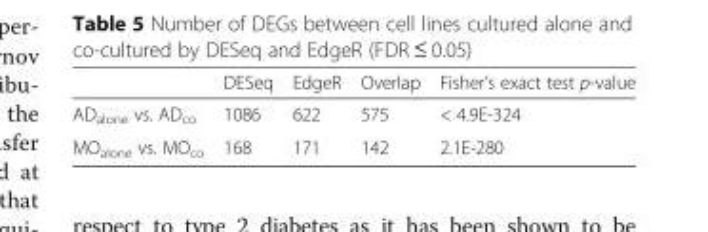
<table><thead><tr><td></td><td>DESeq</td><td>EdgeR</td><td>Overlap</td><td>Fisher’s exact test p-value</td></tr></thead><tbody><tr><td>AD<sub>alone</sub> vs. AD<sub>co</sub></td><td>1086</td><td>622</td><td>575</td><td>&lt; 4.9E-324</td></tr><tr><td>MO<sub>alone</sub> vs. MO<sub>co</sub></td><td>168</td><td>171</td><td>142</td><td>2.1E-280</td></tr></tbody></table>